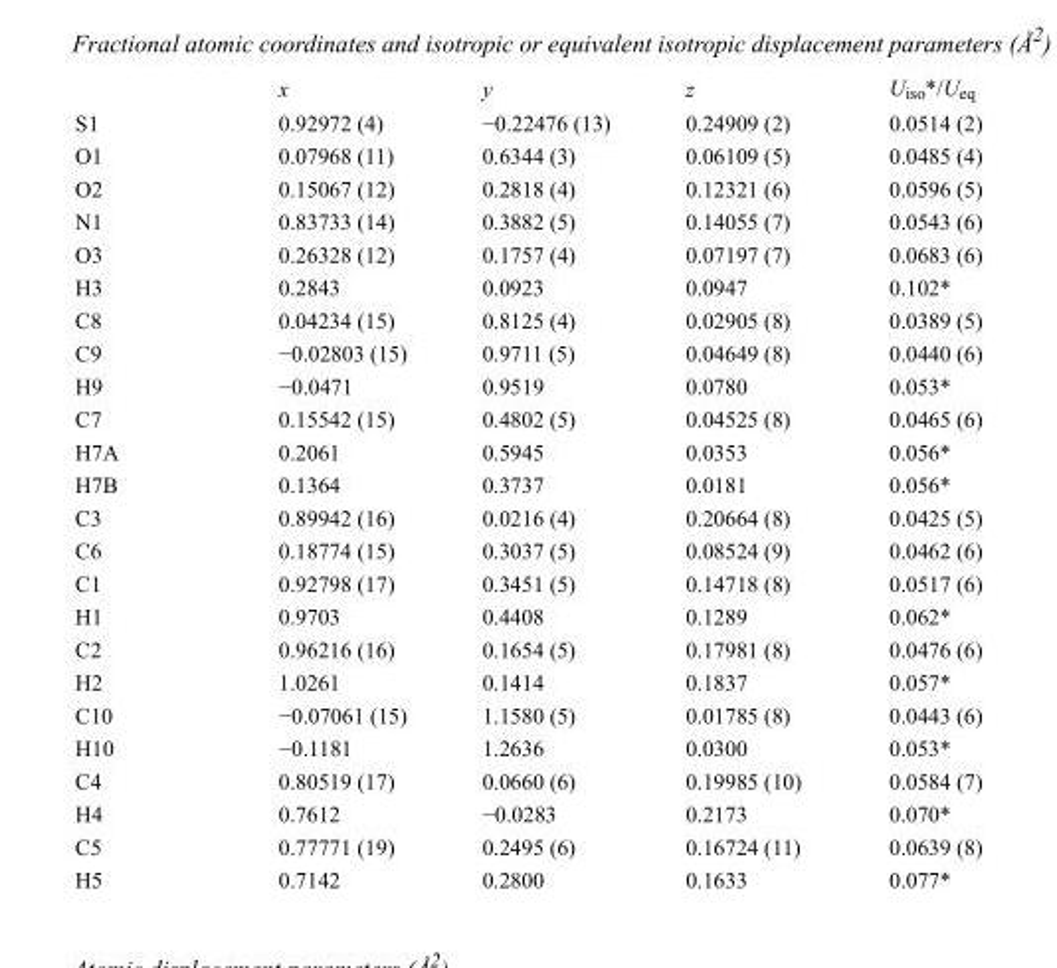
<table><thead><tr><td></td><td>x</td><td>y</td><td>z</td><td>U<sub>iso</sub>*/U<sub>eq</sub></td></tr></thead><tbody><tr><td>S1</td><td>0.92972 (4)</td><td>−0.22476 (13)</td><td>0.24909 (2)</td><td>0.0514 (2)</td></tr><tr><td>O1</td><td>0.07968 (11)</td><td>0.6344 (3)</td><td>0.06109 (5)</td><td>0.0485 (4)</td></tr><tr><td>O2</td><td>0.15067 (12)</td><td>0.2818 (4)</td><td>0.12321 (6)</td><td>0.0596 (5)</td></tr><tr><td>N1</td><td>0.83733 (14)</td><td>0.3882 (5)</td><td>0.14055 (7)</td><td>0.0543 (6)</td></tr><tr><td>O3</td><td>0.26328 (12)</td><td>0.1757 (4)</td><td>0.07197 (7)</td><td>0.0683 (6)</td></tr><tr><td>H3</td><td>0.2843</td><td>0.0923</td><td>0.0947</td><td>0.102*</td></tr><tr><td>C8</td><td>0.04234 (15)</td><td>0.8125 (4)</td><td>0.02905 (8)</td><td>0.0389 (5)</td></tr><tr><td>C9</td><td>−0.02803 (15)</td><td>0.9711 (5)</td><td>0.04649 (8)</td><td>0.0440 (6)</td></tr><tr><td>H9</td><td>−0.0471</td><td>0.9519</td><td>0.0780</td><td>0.053*</td></tr><tr><td>C7</td><td>0.15542 (15)</td><td>0.4802 (5)</td><td>0.04525 (8)</td><td>0.0465 (6)</td></tr><tr><td>H7A</td><td>0.2061</td><td>0.5945</td><td>0.0353</td><td>0.056*</td></tr><tr><td>H7B</td><td>0.1364</td><td>0.3737</td><td>0.0181</td><td>0.056*</td></tr><tr><td>C3</td><td>0.89942 (16)</td><td>0.0216 (4)</td><td>0.20664 (8)</td><td>0.0425 (5)</td></tr><tr><td>C6</td><td>0.18774 (15)</td><td>0.3037 (5)</td><td>0.08524 (9)</td><td>0.0462 (6)</td></tr><tr><td>C1</td><td>0.92798 (17)</td><td>0.3451 (5)</td><td>0.14718 (8)</td><td>0.0517 (6)</td></tr><tr><td>H1</td><td>0.9703</td><td>0.4408</td><td>0.1289</td><td>0.062*</td></tr><tr><td>C2</td><td>0.96216 (16)</td><td>0.1654 (5)</td><td>0.17981 (8)</td><td>0.0476 (6)</td></tr><tr><td>H2</td><td>1.0261</td><td>0.1414</td><td>0.1837</td><td>0.057*</td></tr><tr><td>C10</td><td>−0.07061 (15)</td><td>1.1580 (5)</td><td>0.01785 (8)</td><td>0.0443 (6)</td></tr><tr><td>H10</td><td>−0.1181</td><td>1.2636</td><td>0.0300</td><td>0.053*</td></tr><tr><td>C4</td><td>0.80519 (17)</td><td>0.0660 (6)</td><td>0.19985 (10)</td><td>0.0584 (7)</td></tr><tr><td>H4</td><td>0.7612</td><td>−0.0283</td><td>0.2173</td><td>0.070*</td></tr><tr><td>C5</td><td>0.77771 (19)</td><td>0.2495 (6)</td><td>0.16724 (11)</td><td>0.0639 (8)</td></tr><tr><td>H5</td><td>0.7142</td><td>0.2800</td><td>0.1633</td><td>0.077*</td></tr></tbody></table>